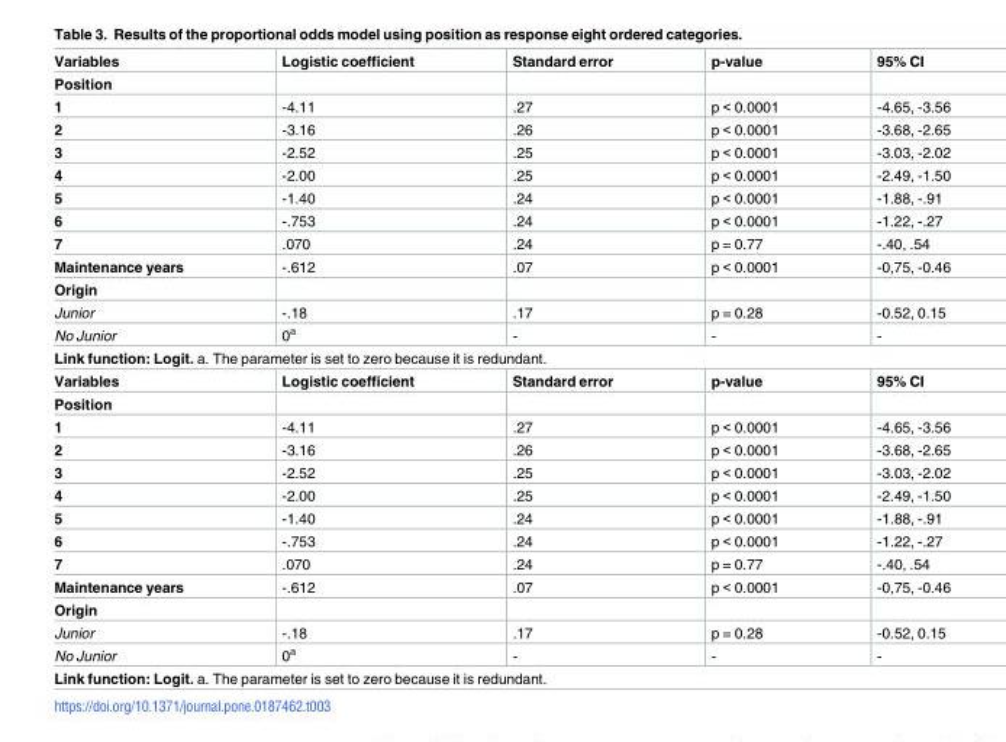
<table><tbody><tr><td>Variables</td><td>Logistic coefficient</td><td>Standard error</td><td>p-value</td><td>95% CI</td></tr><tr><td colspan="5">Position</td></tr><tr><td>1</td><td>-4.11</td><td>.27</td><td>p &lt; 0.0001</td><td>-4.65, -3.56</td></tr><tr><td>2</td><td>-3.16</td><td>.26</td><td>p &lt; 0.0001</td><td>-3.68, -2.65</td></tr><tr><td>3</td><td>-2.52</td><td>.25</td><td>p &lt; 0.0001</td><td>-3.03, -2.02</td></tr><tr><td>4</td><td>-2.00</td><td>.25</td><td>p &lt; 0.0001</td><td>-2.49, -1.50</td></tr><tr><td>5</td><td>-1.40</td><td>.24</td><td>p &lt; 0.0001</td><td>-1.88, -.91</td></tr><tr><td>6</td><td>-.753</td><td>.24</td><td>p &lt; 0.0001</td><td>-1.22, -.27</td></tr><tr><td>7</td><td>.070</td><td>.24</td><td>p = 0.77</td><td>-.40, .54</td></tr><tr><td>Maintenance years</td><td>-.612</td><td>.07</td><td>p &lt; 0.0001</td><td>-0,75, -0.46</td></tr><tr><td colspan="5">Origin</td></tr><tr><td>Junior</td><td>-.18</td><td>.17</td><td>p = 0.28</td><td>-0.52, 0.15</td></tr><tr><td>No Junior</td><td>0<sup>a</sup></td><td>-</td><td>-</td><td>-</td></tr><tr><td colspan="5">Link function: Logit. a. The parameter is set to zero because it is redundant.</td></tr><tr><td>Variables</td><td>Logistic coefficient</td><td>Standard error</td><td>p-value</td><td>95% CI</td></tr><tr><td colspan="5">Position</td></tr><tr><td>1</td><td>-4.11</td><td>.27</td><td>p &lt; 0.0001</td><td>-4.65, -3.56</td></tr><tr><td>2</td><td>-3.16</td><td>.26</td><td>p &lt; 0.0001</td><td>-3.68, -2.65</td></tr><tr><td>3</td><td>-2.52</td><td>.25</td><td>p &lt; 0.0001</td><td>-3.03, -2.02</td></tr><tr><td>4</td><td>-2.00</td><td>.25</td><td>p &lt; 0.0001</td><td>-2.49, -1.50</td></tr><tr><td>5</td><td>-1.40</td><td>.24</td><td>p &lt; 0.0001</td><td>-1.88, -.91</td></tr><tr><td>6</td><td>-.753</td><td>.24</td><td>p &lt; 0.0001</td><td>-1.22, -.27</td></tr><tr><td>7</td><td>.070</td><td>.24</td><td>p = 0.77</td><td>-.40, .54</td></tr><tr><td>Maintenance years</td><td>-.612</td><td>.07</td><td>p &lt; 0.0001</td><td>-0,75, -0.46</td></tr><tr><td colspan="5">Origin</td></tr><tr><td>Junior</td><td>-.18</td><td>.17</td><td>p = 0.28</td><td>-0.52, 0.15</td></tr><tr><td>No Junior</td><td>0<sup>a</sup></td><td>-</td><td>-</td><td>-</td></tr><tr><td colspan="5">Link function: Logit. a. The parameter is set to zero because it is redundant.</td></tr></tbody></table>